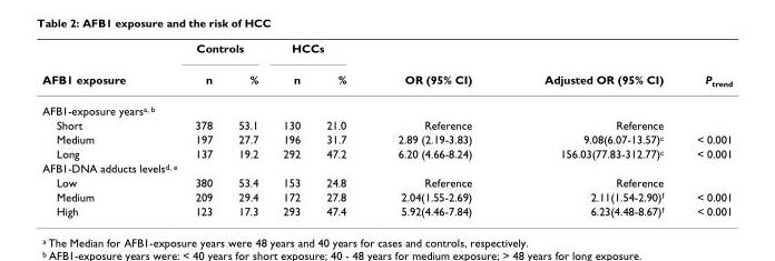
<table><thead><tr><td rowspan="2">AFB1 exposure</td><td colspan="2">Controls</td><td colspan="2">HCCs</td><td rowspan="2">OR (95% CI)</td><td rowspan="2">Adjusted OR (95% CI)</td><td rowspan="2">P<sub>trend</sub></td></tr><tr><td>n</td><td>%</td><td>n</td><td>%</td></tr></thead><tbody><tr><td colspan="8">AFB1-exposure years<sup>a, b</sup></td></tr><tr><td>Short</td><td>378</td><td>53.1</td><td>130</td><td>21.0</td><td>Reference</td><td>Reference</td><td></td></tr><tr><td>Medium</td><td>197</td><td>27.7</td><td>196</td><td>31.7</td><td>2.89 (2.19-3.83)</td><td>9.08(6.07-13.57)<sup>c</sup></td><td>&lt; 0.001</td></tr><tr><td>Long</td><td>137</td><td>19.2</td><td>292</td><td>47.2</td><td>6.20 (4.66-8.24)</td><td>156.03(77.83-312.77)<sup>c</sup></td><td>&lt; 0.001</td></tr><tr><td colspan="8">AFB1-DNA adducts levels<sup>d, e</sup></td></tr><tr><td>Low</td><td>380</td><td>53.4</td><td>153</td><td>24.8</td><td>Reference</td><td>Reference</td><td></td></tr><tr><td>Medium</td><td>209</td><td>29.4</td><td>172</td><td>27.8</td><td>2.04(1.55-2.69)</td><td>2.11(1.54-2.90)<sup>f</sup></td><td>&lt; 0.001</td></tr><tr><td>High</td><td>123</td><td>17.3</td><td>293</td><td>47.4</td><td>5.92(4.46-7.84)</td><td>6.23(4.48-8.67)<sup>f</sup></td><td>&lt; 0.001</td></tr></tbody></table>